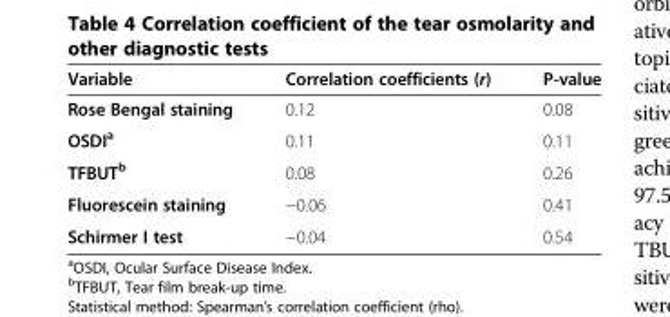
<table><thead><tr><td>Variable</td><td>Correlation coefficients (r)</td><td>P-value</td></tr></thead><tbody><tr><td>Rose Bengal staining</td><td>0.12</td><td>0.08</td></tr><tr><td>OSDI<sup>a</sup></td><td>0.11</td><td>0.11</td></tr><tr><td>TFBUT<sup>b</sup></td><td>0.08</td><td>0.26</td></tr><tr><td>Fluorescein staining</td><td>−0.06</td><td>0.41</td></tr><tr><td>Schirmer I test</td><td>−0.04</td><td>0.54</td></tr></tbody></table>